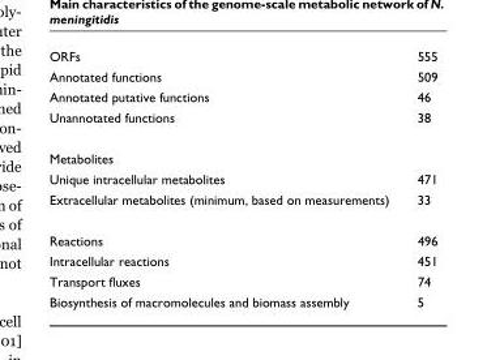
<table><tbody><tr><td>ORFs</td><td>555</td></tr><tr><td>Annotated functions</td><td>509</td></tr><tr><td>Annotated putative functions</td><td>46</td></tr><tr><td>Unannotated functions</td><td>38</td></tr><tr><td colspan="2">Metabolites</td></tr><tr><td>Unique intracellular metabolites</td><td>471</td></tr><tr><td>Extracellular metabolites (minimum, based on measurements)</td><td>33</td></tr><tr><td>Reactions</td><td>496</td></tr><tr><td>Intracellular reactions</td><td>451</td></tr><tr><td>Transport fluxes</td><td>74</td></tr><tr><td>Biosynthesis of macromolecules and biomass assembly</td><td>5</td></tr></tbody></table>